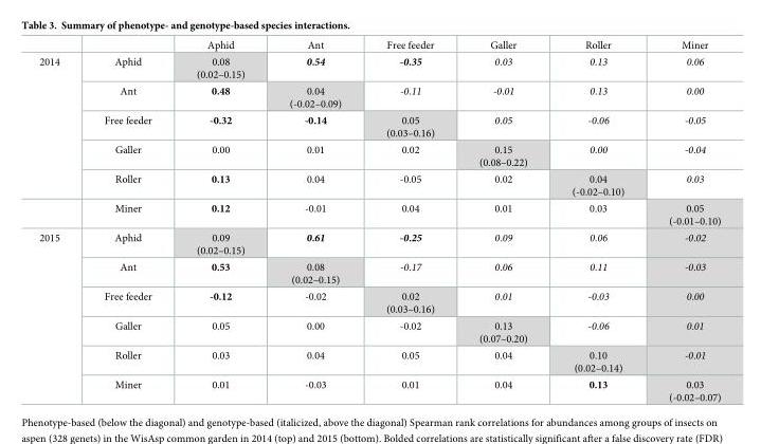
<table><thead><tr><td></td><td></td><td>Aphid</td><td>Ant</td><td>Free feeder</td><td>Galler</td><td>Roller</td><td>Miner</td></tr></thead><tbody><tr><td rowspan="6">2014</td><td>Aphid</td><td>0.08 (0.02–0.15)</td><td>0.54</td><td>-0.35</td><td>0.03</td><td>0.13</td><td>0.06</td></tr><tr><td>Ant</td><td>0.48</td><td>0.04 (-0.02–0.09)</td><td>-0.11</td><td>-0.01</td><td>0.13</td><td>0.00</td></tr><tr><td>Free feeder</td><td>-0.32</td><td>-0.14</td><td>0.05 (0.03–0.16)</td><td>0.05</td><td>-0.06</td><td>-0.05</td></tr><tr><td>Galler</td><td>0.00</td><td>0.01</td><td>0.02</td><td>0.15 (0.08–0.22)</td><td>0.00</td><td>-0.04</td></tr><tr><td>Roller</td><td>0.13</td><td>0.04</td><td>-0.05</td><td>0.02</td><td>0.04 (-0.02–0.10)</td><td>0.03</td></tr><tr><td>Miner</td><td>0.12</td><td>-0.01</td><td>0.04</td><td>0.01</td><td>0.03</td><td>0.05 (-0.01–0.10)</td></tr><tr><td rowspan="6">2015</td><td>Aphid</td><td>0.09 (0.02–0.15)</td><td>0.61</td><td>-0.25</td><td>0.09</td><td>0.06</td><td>-0.02</td></tr><tr><td>Ant</td><td>0.53</td><td>0.08 (0.02–0.15)</td><td>-0.17</td><td>0.06</td><td>0.11</td><td>-0.03</td></tr><tr><td>Free feeder</td><td>-0.12</td><td>-0.02</td><td>0.02 (0.03–0.16)</td><td>0.01</td><td>-0.03</td><td>0.00</td></tr><tr><td>Galler</td><td>0.05</td><td>0.00</td><td>-0.02</td><td>0.13 (0.07–0.20)</td><td>-0.06</td><td>0.01</td></tr><tr><td>Roller</td><td>0.03</td><td>0.04</td><td>0.05</td><td>0.04</td><td>0.10 (0.02–0.14)</td><td>-0.01</td></tr><tr><td>Miner</td><td>0.01</td><td>-0.03</td><td>0.01</td><td>0.04</td><td>0.13</td><td>0.03 (-0.02–0.07)</td></tr></tbody></table>